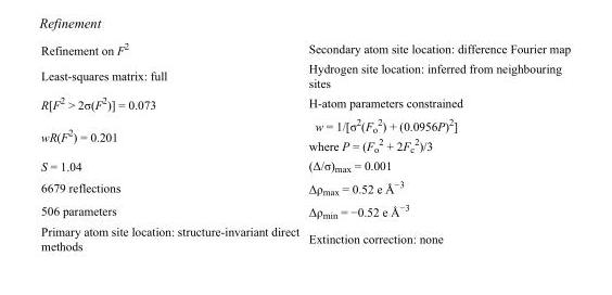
<table><tbody><tr><td>Refinement on F<sup>2</sup></td><td>Secondary atom site location: difference Fourier map</td></tr><tr><td>Least-squares matrix: full</td><td>Hydrogen site location: inferred from neighbouring sites</td></tr><tr><td>R[F<sup>2</sup> &gt; 2σ(F<sup>2</sup>)] = 0.073</td><td>H-atom parameters constrained</td></tr><tr><td>wR(F<sup>2</sup>) = 0.201</td><td>w = 1/[σ<sup>2</sup>(F<sub>o</sub> <sup>2</sup>) + (0.0956P)<sup>2</sup>] where P = (F<sub>o</sub> <sup>2</sup> + 2F<sub>c</sub> <sup>2</sup>)/3</td></tr><tr><td>S = 1.04</td><td>(Δ/σ)<sub>max</sub> = 0.001</td></tr><tr><td>6679 reflections</td><td>Δρ<sub>max</sub> = 0.52 e Å<sup>−3</sup></td></tr><tr><td>506 parameters</td><td>Δρ<sub>min</sub> = −0.52 e Å<sup>−3</sup></td></tr><tr><td>Primary atom site location: structure-invariant direct methods</td><td>Extinction correction: none</td></tr></tbody></table>